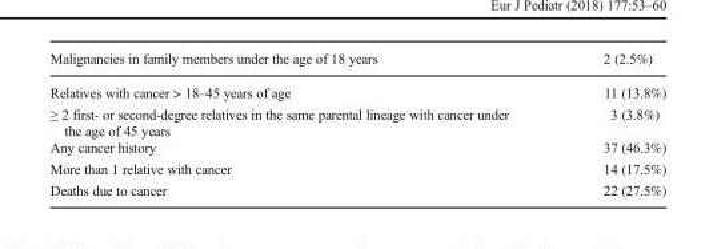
<table><thead><tr><td>Malignancies in family members under the age of 18 years</td><td>2 (2.5%)</td></tr></thead><tbody><tr><td>Relatives with cancer &gt; 18–45 years of age</td><td>11 (13.8%)</td></tr><tr><td>≥ 2 first- or second-degree relatives in the same parental lineage with cancer under the age of 45 years</td><td>3 (3.8%)</td></tr><tr><td>Any cancer history</td><td>37 (46.3%)</td></tr><tr><td>More than 1 relative with cancer</td><td>14 (17.5%)</td></tr><tr><td>Deaths due to cancer</td><td>22 (27.5%)</td></tr></tbody></table>